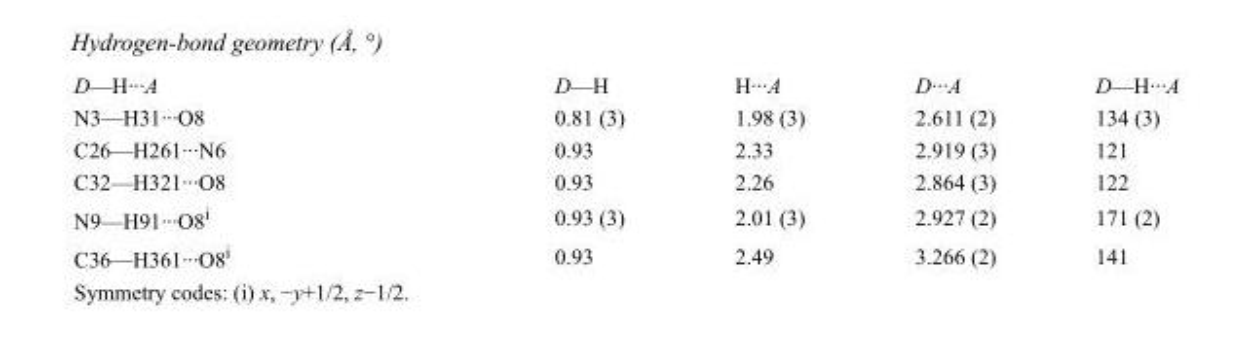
<table><tbody><tr><td>D—H···A</td><td>D—H</td><td>H···A</td><td>D···A</td><td>D—H···A</td></tr><tr><td>N3—H31···O8</td><td>0.81 (3)</td><td>1.98 (3)</td><td>2.611 (2)</td><td>134 (3)</td></tr><tr><td>C26—H261···N6</td><td>0.93</td><td>2.33</td><td>2.919 (3)</td><td>121</td></tr><tr><td>C32—H321···O8</td><td>0.93</td><td>2.26</td><td>2.864 (3)</td><td>122</td></tr><tr><td>N9—H91···O8<sup>i</sup></td><td>0.93 (3)</td><td>2.01 (3)</td><td>2.927 (2)</td><td>171 (2)</td></tr><tr><td>C36—H361···O8<sup>i</sup></td><td>0.93</td><td>2.49</td><td>3.266 (2)</td><td>141</td></tr></tbody></table>